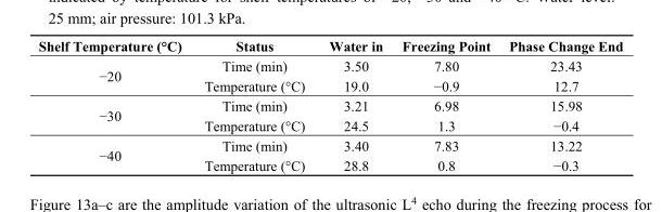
<table><thead><tr><td>Shelf Temperature (°C)</td><td>Status</td><td>Water in</td><td>Freezing Point</td><td>Phase Change End</td></tr></thead><tbody><tr><td rowspan="2">−20</td><td>Time (min)</td><td>3.50</td><td>7.80</td><td>23.43</td></tr><tr><td>Temperature (°C)</td><td>19.0</td><td>−0.9</td><td>12.7</td></tr><tr><td rowspan="2">−30</td><td>Time (min)</td><td>3.21</td><td>6.98</td><td>15.98</td></tr><tr><td>Temperature (°C)</td><td>24.5</td><td>1.3</td><td>−0.4</td></tr><tr><td rowspan="2">−40</td><td>Time (min)</td><td>3.40</td><td>7.83</td><td>13.22</td></tr><tr><td>Temperature (°C)</td><td>28.8</td><td>0.8</td><td>−0.3</td></tr></tbody></table>